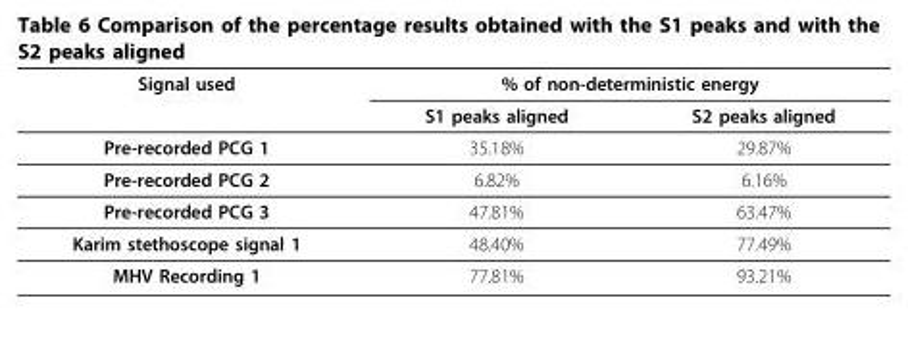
<table><thead><tr><td rowspan="2">Signal used</td><td colspan="2">% of non-deterministic energy</td></tr><tr><td>S1 peaks aligned</td><td>S2 peaks aligned</td></tr></thead><tbody><tr><td>Pre-recorded PCG 1</td><td>35.18%</td><td>29.87%</td></tr><tr><td>Pre-recorded PCG 2</td><td>6.82%</td><td>6.16%</td></tr><tr><td>Pre-recorded PCG 3</td><td>47.81%</td><td>63.47%</td></tr><tr><td>Karim stethoscope signal 1</td><td>48.40%</td><td>77.49%</td></tr><tr><td>MHV Recording 1</td><td>77.81%</td><td>93.21%</td></tr></tbody></table>